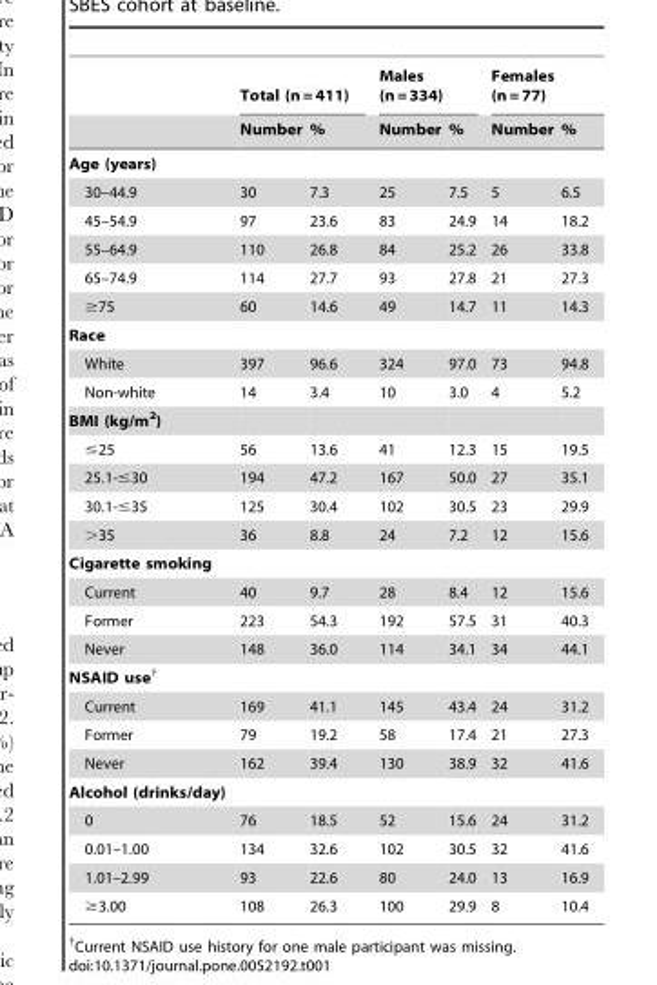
<table><thead><tr><td rowspan="2"></td><td colspan="2">Total (n = 411)</td><td colspan="2">Males (n = 334)</td><td colspan="2">Females (n = 77)</td></tr><tr><td>Number</td><td>%</td><td>Number</td><td>%</td><td>Number</td><td>%</td></tr></thead><tbody><tr><td colspan="7">Age (years)</td></tr><tr><td>30–44.9</td><td>30</td><td>7.3</td><td>25</td><td>7.5</td><td>5</td><td>6.5</td></tr><tr><td>45–54.9</td><td>97</td><td>23.6</td><td>83</td><td>24.9</td><td>14</td><td>18.2</td></tr><tr><td>55–64.9</td><td>110</td><td>26.8</td><td>84</td><td>25.2</td><td>26</td><td>33.8</td></tr><tr><td>65–74.9</td><td>114</td><td>27.7</td><td>93</td><td>27.8</td><td>21</td><td>27.3</td></tr><tr><td>≥75</td><td>60</td><td>14.6</td><td>49</td><td>14.7</td><td>11</td><td>14.3</td></tr><tr><td colspan="7">Race</td></tr><tr><td>White</td><td>397</td><td>96.6</td><td>324</td><td>97.0</td><td>73</td><td>94.8</td></tr><tr><td>Non-white</td><td>14</td><td>3.4</td><td>10</td><td>3.0</td><td>4</td><td>5.2</td></tr><tr><td colspan="7">BMI (kg/m<sup>2</sup>)</td></tr><tr><td>≤25</td><td>56</td><td>13.6</td><td>41</td><td>12.3</td><td>15</td><td>19.5</td></tr><tr><td>25.1-≤30</td><td>194</td><td>47.2</td><td>167</td><td>50.0</td><td>27</td><td>35.1</td></tr><tr><td>30.1-≤35</td><td>125</td><td>30.4</td><td>102</td><td>30.5</td><td>23</td><td>29.9</td></tr><tr><td>&gt;35</td><td>36</td><td>8.8</td><td>24</td><td>7.2</td><td>12</td><td>15.6</td></tr><tr><td colspan="7">Cigarette smoking</td></tr><tr><td>Current</td><td>40</td><td>9.7</td><td>28</td><td>8.4</td><td>12</td><td>15.6</td></tr><tr><td>Former</td><td>223</td><td>54.3</td><td>192</td><td>57.5</td><td>31</td><td>40.3</td></tr><tr><td>Never</td><td>148</td><td>36.0</td><td>114</td><td>34.1</td><td>34</td><td>44.1</td></tr><tr><td colspan="7">NSAID use†</td></tr><tr><td>Current</td><td>169</td><td>41.1</td><td>145</td><td>43.4</td><td>24</td><td>31.2</td></tr><tr><td>Former</td><td>79</td><td>19.2</td><td>58</td><td>17.4</td><td>21</td><td>27.3</td></tr><tr><td>Never</td><td>162</td><td>39.4</td><td>130</td><td>38.9</td><td>32</td><td>41.6</td></tr><tr><td colspan="7">Alcohol (drinks/day)</td></tr><tr><td>0</td><td>76</td><td>18.5</td><td>52</td><td>15.6</td><td>24</td><td>31.2</td></tr><tr><td>0.01–1.00</td><td>134</td><td>32.6</td><td>102</td><td>30.5</td><td>32</td><td>41.6</td></tr><tr><td>1.01–2.99</td><td>93</td><td>22.6</td><td>80</td><td>24.0</td><td>13</td><td>16.9</td></tr><tr><td>≥3.00</td><td>108</td><td>26.3</td><td>100</td><td>29.9</td><td>8</td><td>10.4</td></tr></tbody></table>